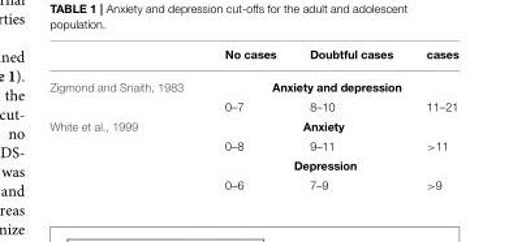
<table><thead><tr><td></td><td>No cases</td><td>Doubtful cases</td><td>cases</td></tr></thead><tbody><tr><td rowspan="2">Zigmond and Snaith, 1983</td><td colspan="3">Anxiety and depression</td></tr><tr><td>0–7</td><td>8–10</td><td>11–21</td></tr><tr><td rowspan="4">White et al., 1999</td><td colspan="3">Anxiety</td></tr><tr><td>0–8</td><td>9–11</td><td>&gt;11</td></tr><tr><td colspan="3">Depression</td></tr><tr><td>0–6</td><td>7–9</td><td>&gt;9</td></tr></tbody></table>